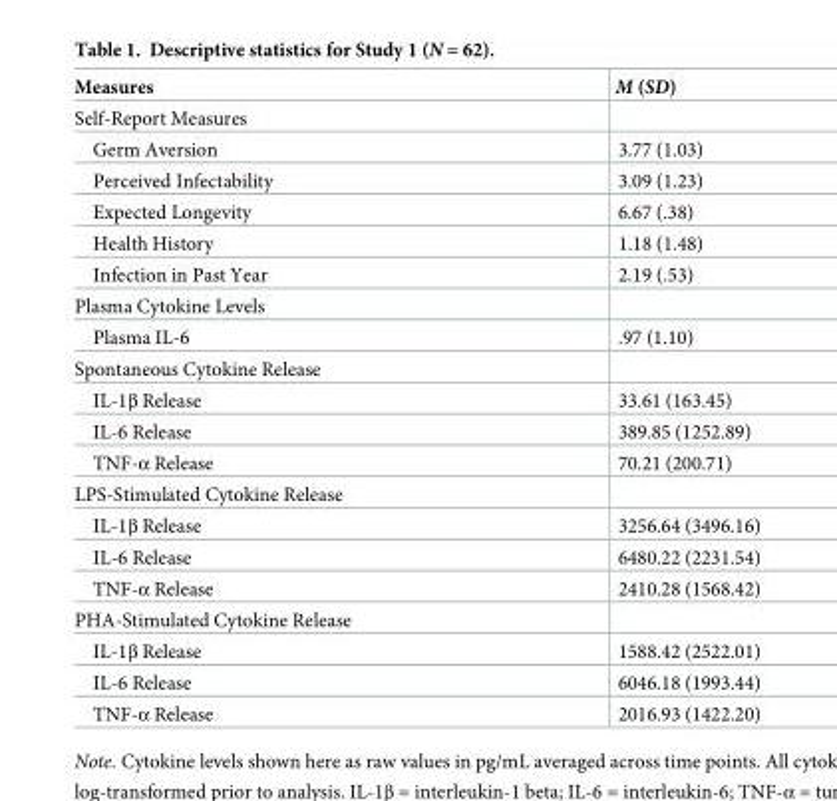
<table><thead><tr><td>Measures</td><td>M (SD)</td></tr></thead><tbody><tr><td colspan="2">Self-Report Measures</td></tr><tr><td>Germ Aversion</td><td>3.77 (1.03)</td></tr><tr><td>Perceived Infectability</td><td>3.09 (1.23)</td></tr><tr><td>Expected Longevity</td><td>6.67 (.38)</td></tr><tr><td>Health History</td><td>1.18 (1.48)</td></tr><tr><td>Infection in Past Year</td><td>2.19 (.53)</td></tr><tr><td colspan="2">Plasma Cytokine Levels</td></tr><tr><td>Plasma IL-6</td><td>.97 (1.10)</td></tr><tr><td colspan="2">Spontaneous Cytokine Release</td></tr><tr><td>IL-1β Release</td><td>33.61 (163.45)</td></tr><tr><td>IL-6 Release</td><td>389.85 (1252.89)</td></tr><tr><td>TNF-α Release</td><td>70.21 (200.71)</td></tr><tr><td colspan="2">LPS-Stimulated Cytokine Release</td></tr><tr><td>IL-1β Release</td><td>3256.64 (3496.16)</td></tr><tr><td>IL-6 Release</td><td>6480.22 (2231.54)</td></tr><tr><td>TNF-α Release</td><td>2410.28 (1568.42)</td></tr><tr><td colspan="2">PHA-Stimulated Cytokine Release</td></tr><tr><td>IL-1β Release</td><td>1588.42 (2522.01)</td></tr><tr><td>IL-6 Release</td><td>6046.18 (1993.44)</td></tr><tr><td>TNF-α Release</td><td>2016.93 (1422.20)</td></tr></tbody></table>